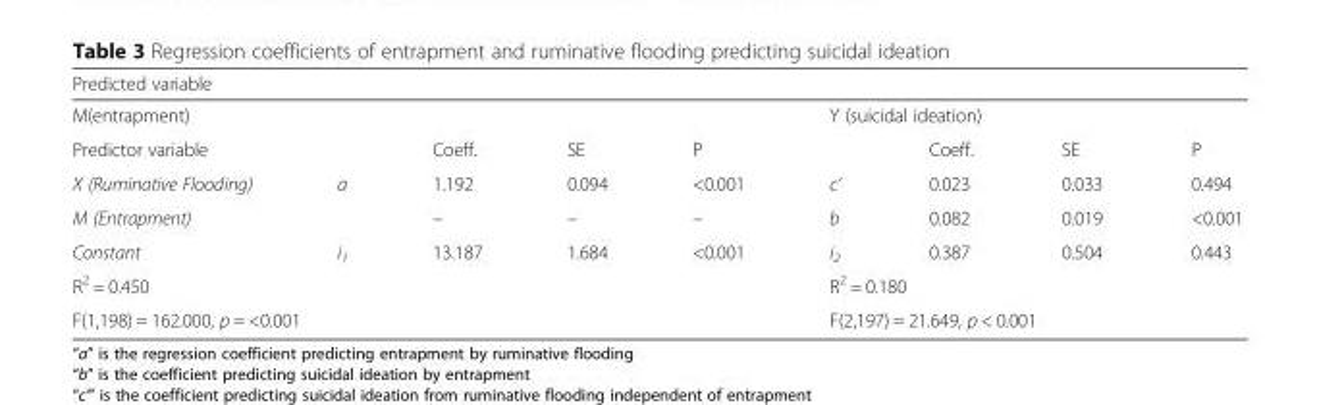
<table><thead><tr><td colspan="9">Predicted variable</td></tr><tr><td colspan="5">M(entrapment)</td><td colspan="4">Y (suicidal ideation)</td></tr><tr><td>Predictor variable</td><td></td><td>Coeff.</td><td>SE</td><td>P</td><td></td><td>Coeff.</td><td>SE</td><td>P</td></tr></thead><tbody><tr><td>X (Ruminative Flooding)</td><td>a</td><td>1.192</td><td>0.094</td><td>&lt;0.001</td><td>c’</td><td>0.023</td><td>0.033</td><td>0.494</td></tr><tr><td>M (Entrapment)</td><td></td><td>–</td><td>–</td><td>–</td><td>b</td><td>0.082</td><td>0.019</td><td>&lt;0.001</td></tr><tr><td>Constant</td><td>i<sub>1</sub></td><td>13.187</td><td>1.684</td><td>&lt;0.001</td><td>i<sub>2</sub></td><td>0.387</td><td>0.504</td><td>0.443</td></tr><tr><td colspan="5">R<sup>2</sup> = 0.450</td><td colspan="4">R<sup>2</sup> = 0.180</td></tr><tr><td colspan="5">F(1,198) = 162.000, p = &lt;0.001</td><td colspan="4">F(2,197) = 21.649, p &lt; 0.001</td></tr></tbody></table>